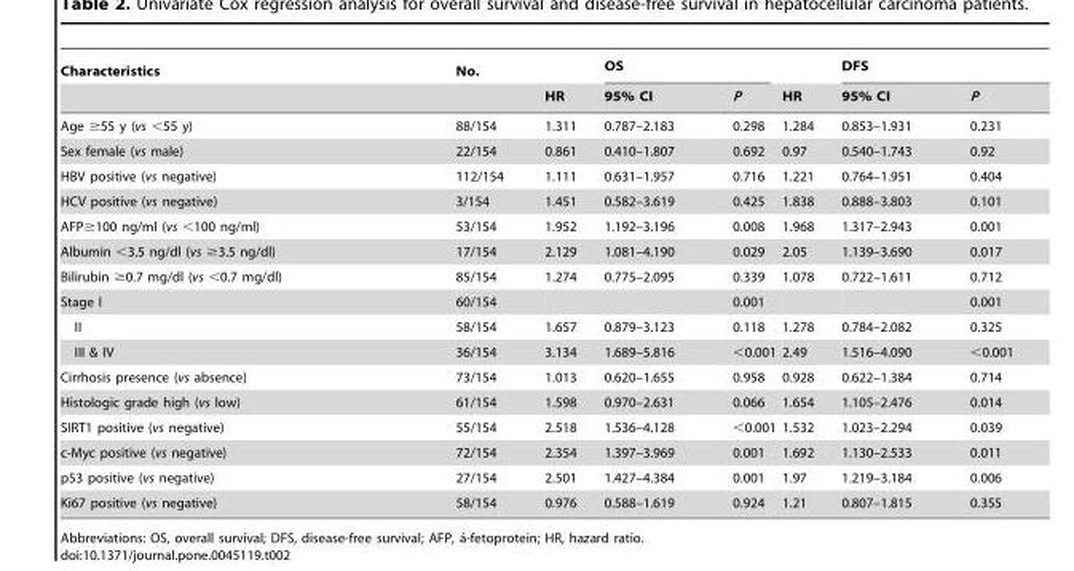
<table><thead><tr><td rowspan="2">Characteristics</td><td rowspan="2">No.</td><td rowspan="2">HR</td><td colspan="2">OS</td><td rowspan="2">HR</td><td colspan="2">DFS</td></tr><tr><td>95% CI</td><td>P</td><td>95% CI</td><td>P</td></tr></thead><tbody><tr><td>Age ≥55 y (vs &lt;55 y)</td><td>88/154</td><td>1.311</td><td>0.787–2.183</td><td>0.298</td><td>1.284</td><td>0.853–1.931</td><td>0.231</td></tr><tr><td>Sex female (vs male)</td><td>22/154</td><td>0.861</td><td>0.410–1.807</td><td>0.692</td><td>0.97</td><td>0.540–1.743</td><td>0.92</td></tr><tr><td>HBV positive (vs negative)</td><td>112/154</td><td>1.111</td><td>0.631–1.957</td><td>0.716</td><td>1.221</td><td>0.764–1.951</td><td>0.404</td></tr><tr><td>HCV positive (vs negative)</td><td>3/154</td><td>1.451</td><td>0.582–3.619</td><td>0.425</td><td>1.838</td><td>0.888–3.803</td><td>0.101</td></tr><tr><td>AFP≥100 ng/ml (vs &lt;100 ng/ml)</td><td>53/154</td><td>1.952</td><td>1.192–3.196</td><td>0.008</td><td>1.968</td><td>1.317–2.943</td><td>0.001</td></tr><tr><td>Albumin &lt;3.5 ng/dl (vs ≥3.5 ng/dl)</td><td>17/154</td><td>2.129</td><td>1.081–4.190</td><td>0.029</td><td>2.05</td><td>1.139–3.690</td><td>0.017</td></tr><tr><td>Bilirubin ≥0.7 mg/dl (vs &lt;0.7 mg/dl)</td><td>85/154</td><td>1.274</td><td>0.775–2.095</td><td>0.339</td><td>1.078</td><td>0.722–1.611</td><td>0.712</td></tr><tr><td>Stage I</td><td>60/154</td><td></td><td></td><td>0.001</td><td></td><td></td><td>0.001</td></tr><tr><td>II</td><td>58/154</td><td>1.657</td><td>0.879–3.123</td><td>0.118</td><td>1.278</td><td>0.784–2.082</td><td>0.325</td></tr><tr><td>III &amp; IV</td><td>36/154</td><td>3.134</td><td>1.689–5.816</td><td>&lt;0.001</td><td>2.49</td><td>1.516–4.090</td><td>&lt;0.001</td></tr><tr><td>Cirrhosis presence (vs absence)</td><td>73/154</td><td>1.013</td><td>0.620–1.655</td><td>0.958</td><td>0.928</td><td>0.622–1.384</td><td>0.714</td></tr><tr><td>Histologic grade high (vs low)</td><td>61/154</td><td>1.598</td><td>0.970–2.631</td><td>0.066</td><td>1.654</td><td>1.105–2.476</td><td>0.014</td></tr><tr><td>SIRT1 positive (vs negative)</td><td>55/154</td><td>2.518</td><td>1.536–4.128</td><td>&lt;0.001</td><td>1.532</td><td>1.023–2.294</td><td>0.039</td></tr><tr><td>c-Myc positive (vs negative)</td><td>72/154</td><td>2.354</td><td>1.397–3.969</td><td>0.001</td><td>1.692</td><td>1.130–2.533</td><td>0.011</td></tr><tr><td>p53 positive (vs negative)</td><td>27/154</td><td>2.501</td><td>1.427–4.384</td><td>0.001</td><td>1.97</td><td>1.219–3.184</td><td>0.006</td></tr><tr><td>Ki67 positive (vs negative)</td><td>58/154</td><td>0.976</td><td>0.588–1.619</td><td>0.924</td><td>1.21</td><td>0.807–1.815</td><td>0.355</td></tr></tbody></table>